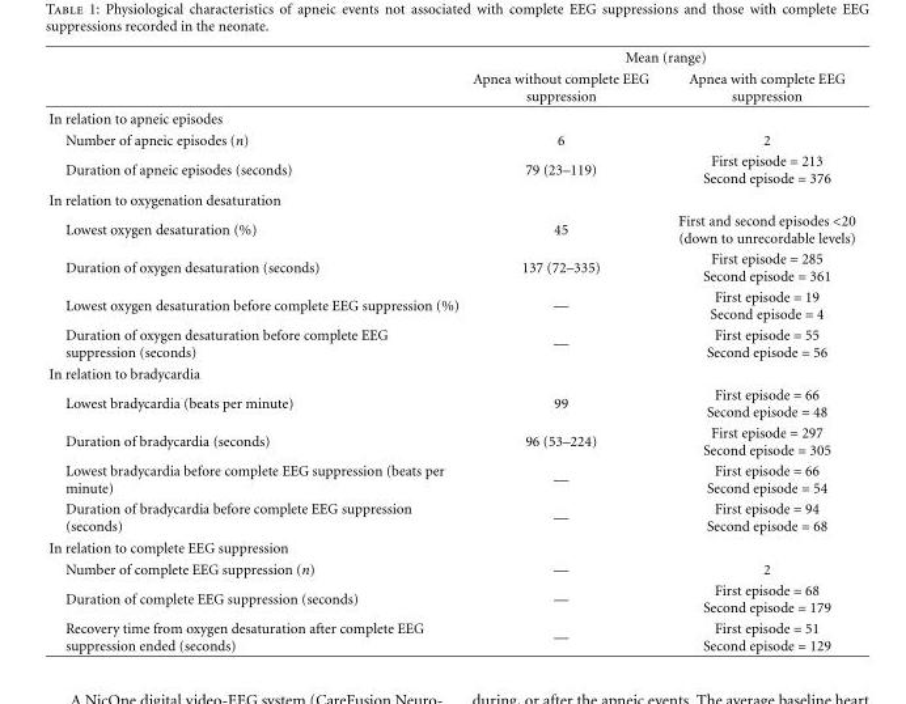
<table><thead><tr><td rowspan="2"></td><td colspan="2">Mean (range)</td></tr><tr><td>Apnea without complete EEG suppression</td><td>Apnea with complete EEG suppression</td></tr></thead><tbody><tr><td colspan="3">In relation to apneic episodes</td></tr><tr><td>Number of apneic episodes (n)</td><td>6</td><td>2</td></tr><tr><td>Duration of apneic episodes (seconds)</td><td>79 (23–119)</td><td>First episode = 213 Second episode = 376</td></tr><tr><td colspan="3">In relation to oxygenation desaturation</td></tr><tr><td>Lowest oxygen desaturation (%)</td><td>45</td><td>First and second episodes &lt;20 (down to unrecordable levels)</td></tr><tr><td>Duration of oxygen desaturation (seconds)</td><td>137 (72–335)</td><td>First episode = 285 Second episode = 361</td></tr><tr><td>Lowest oxygen desaturation before complete EEG suppression (%)</td><td>—</td><td>First episode = 19 Second episode = 4</td></tr><tr><td>Duration of oxygen desaturation before complete EEG suppression (seconds)</td><td>—</td><td>First episode = 55 Second episode = 56</td></tr><tr><td colspan="3">In relation to bradycardia</td></tr><tr><td>Lowest bradycardia (beats per minute)</td><td>99</td><td>First episode = 66 Second episode = 48</td></tr><tr><td>Duration of bradycardia (seconds)</td><td>96 (53–224)</td><td>First episode = 297 Second episode = 305</td></tr><tr><td>Lowest bradycardia before complete EEG suppression (beats per minute)</td><td>—</td><td>First episode = 66 Second episode = 54</td></tr><tr><td>Duration of bradycardia before complete EEG suppression (seconds)</td><td>—</td><td>First episode = 94 Second episode = 68</td></tr><tr><td colspan="3">In relation to complete EEG suppression</td></tr><tr><td>Number of complete EEG suppression (n)</td><td>—</td><td>2</td></tr><tr><td>Duration of complete EEG suppression (seconds)</td><td>—</td><td>First episode = 68 Second episode = 179</td></tr><tr><td>Recovery time from oxygen desaturation after complete EEG suppression ended (seconds)</td><td>—</td><td>First episode = 51 Second episode = 129</td></tr></tbody></table>